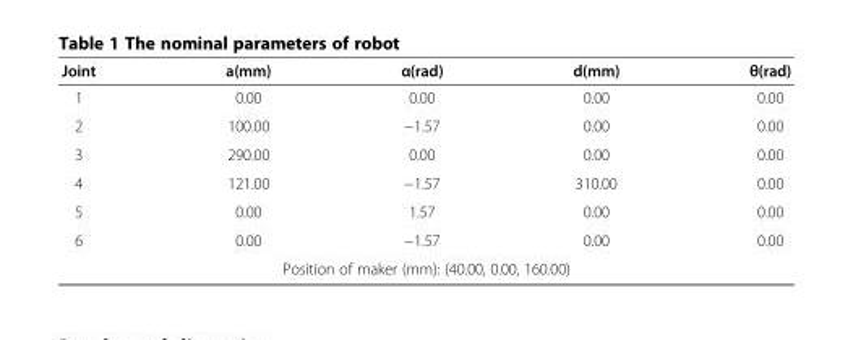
<table><thead><tr><td>Joint</td><td>a(mm)</td><td>α(rad)</td><td>d(mm)</td><td>θ(rad)</td></tr></thead><tbody><tr><td>1</td><td>0.00</td><td>0.00</td><td>0.00</td><td>0.00</td></tr><tr><td>2</td><td>100.00</td><td>−1.57</td><td>0.00</td><td>0.00</td></tr><tr><td>3</td><td>290.00</td><td>0.00</td><td>0.00</td><td>0.00</td></tr><tr><td>4</td><td>121.00</td><td>−1.57</td><td>310.00</td><td>0.00</td></tr><tr><td>5</td><td>0.00</td><td>1.57</td><td>0.00</td><td>0.00</td></tr><tr><td>6</td><td>0.00</td><td>−1.57</td><td>0.00</td><td>0.00</td></tr><tr><td colspan="5">Position of maker (mm): (40.00, 0.00, 160.00)</td></tr></tbody></table>